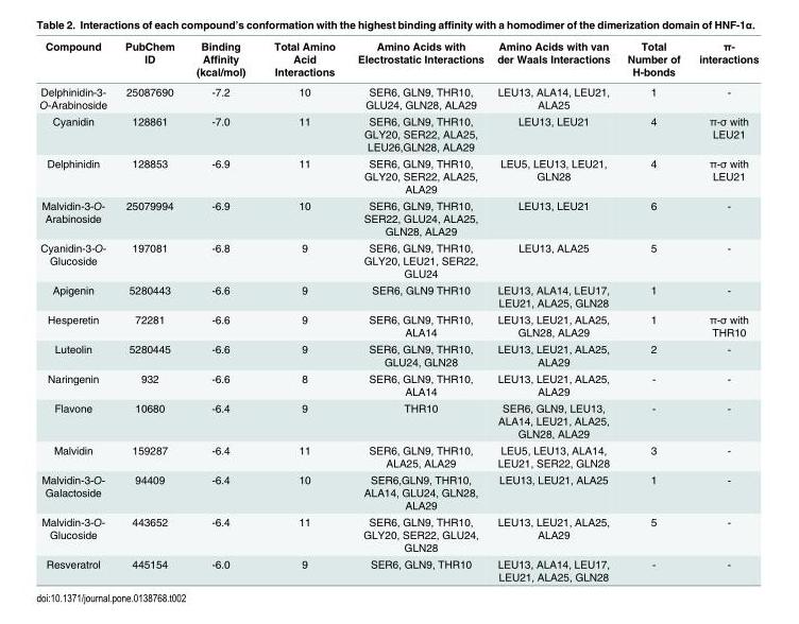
<table><thead><tr><td>Compound</td><td>PubChem ID</td><td>Binding Affinity (kcal/mol)</td><td>Total Amino Acid Interactions</td><td>Amino Acids with Electrostatic Interactions</td><td>Amino Acids with van der Waals Interactions</td><td>Total Number of H-bonds</td><td>π- interactions</td></tr></thead><tbody><tr><td>Delphinidin-3- O-Arabinoside</td><td>25087690</td><td>-7.2</td><td>10</td><td>SER6, GLN9, THR10, GLU24, GLN28, ALA29</td><td>LEU13, ALA14, LEU21, ALA25</td><td>1</td><td>-</td></tr><tr><td>Cyanidin</td><td>128861</td><td>-7.0</td><td>11</td><td>SER6, GLN9, THR10, GLY20, SER22, ALA25, LEU26,GLN28, ALA29</td><td>LEU13, LEU21</td><td>4</td><td>π-σ with LEU21</td></tr><tr><td>Delphinidin</td><td>128853</td><td>-6.9</td><td>11</td><td>SER6, GLN9, THR10, GLY20, SER22, ALA25, ALA29</td><td>LEU5, LEU13, LEU21, GLN28</td><td>4</td><td>π-σ with LEU21</td></tr><tr><td>Malvidin-3-O- Arabinoside</td><td>25079994</td><td>-6.9</td><td>10</td><td>SER6, GLN9, THR10, SER22, GLU24, ALA25, GLN28, ALA29</td><td>LEU13, LEU21</td><td>6</td><td>-</td></tr><tr><td>Cyanidin-3-O- Glucoside</td><td>197081</td><td>-6.8</td><td>9</td><td>SER6, GLN9, THR10, GLY20, LEU21, SER22, GLU24</td><td>LEU13, ALA25</td><td>5</td><td>-</td></tr><tr><td>Apigenin</td><td>5280443</td><td>-6.6</td><td>9</td><td>SER6, GLN9 THR10</td><td>LEU13, ALA14, LEU17, LEU21, ALA25, GLN28</td><td>1</td><td>-</td></tr><tr><td>Hesperetin</td><td>72281</td><td>-6.6</td><td>9</td><td>SER6, GLN9, THR10, ALA14</td><td>LEU13, LEU21, ALA25, GLN28, ALA29</td><td>1</td><td>π-σ with THR10</td></tr><tr><td>Luteolin</td><td>5280445</td><td>-6.6</td><td>9</td><td>SER6, GLN9, THR10, GLU24, GLN28</td><td>LEU13, LEU21, ALA25, ALA29</td><td>2</td><td>-</td></tr><tr><td>Naringenin</td><td>932</td><td>-6.6</td><td>8</td><td>SER6, GLN9, THR10, ALA14</td><td>LEU13, LEU21, ALA25, ALA29</td><td>-</td><td>-</td></tr><tr><td>Flavone</td><td>10680</td><td>-6.4</td><td>9</td><td>THR10</td><td>SER6, GLN9, LEU13, ALA14, LEU21, ALA25, GLN28, ALA29</td><td>-</td><td>-</td></tr><tr><td>Malvidin</td><td>159287</td><td>-6.4</td><td>11</td><td>SER6, GLN9, THR10, ALA25, ALA29</td><td>LEU5, LEU13, ALA14, LEU21, SER22, GLN28</td><td>3</td><td>-</td></tr><tr><td>Malvidin-3-O- Galactoside</td><td>94409</td><td>-6.4</td><td>10</td><td>SER6,GLN9, THR10, ALA14, GLU24, GLN28, ALA29</td><td>LEU13, LEU21, ALA25</td><td>1</td><td>-</td></tr><tr><td>Malvidin-3-O- Glucoside</td><td>443652</td><td>-6.4</td><td>11</td><td>SER6, GLN9, THR10, GLY20, SER22, GLU24, GLN28</td><td>LEU13, LEU21, ALA25, ALA29</td><td>5</td><td>-</td></tr><tr><td>Resveratrol</td><td>445154</td><td>-6.0</td><td>9</td><td>SER6, GLN9, THR10</td><td>LEU13, ALA14, LEU17, LEU21, ALA25, GLN28</td><td>-</td><td>-</td></tr></tbody></table>